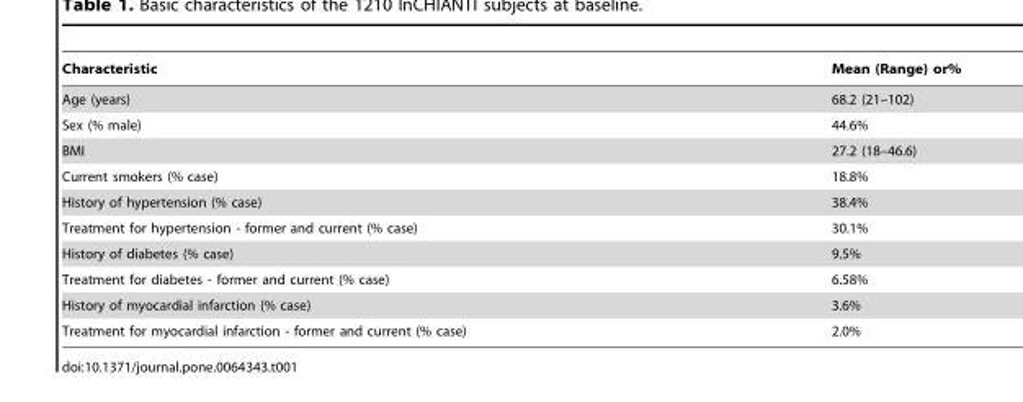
<table><thead><tr><td>Characteristic</td><td>Mean (Range) or%</td></tr></thead><tbody><tr><td>Age (years)</td><td>68.2 (21–102)</td></tr><tr><td>Sex (% male)</td><td>44.6%</td></tr><tr><td>BMI</td><td>27.2 (18–46.6)</td></tr><tr><td>Current smokers (% case)</td><td>18.8%</td></tr><tr><td>History of hypertension (% case)</td><td>38.4%</td></tr><tr><td>Treatment for hypertension - former and current (% case)</td><td>30.1%</td></tr><tr><td>History of diabetes (% case)</td><td>9.5%</td></tr><tr><td>Treatment for diabetes - former and current (% case)</td><td>6.58%</td></tr><tr><td>History of myocardial infarction (% case)</td><td>3.6%</td></tr><tr><td>Treatment for myocardial infarction - former and current (% case)</td><td>2.0%</td></tr></tbody></table>